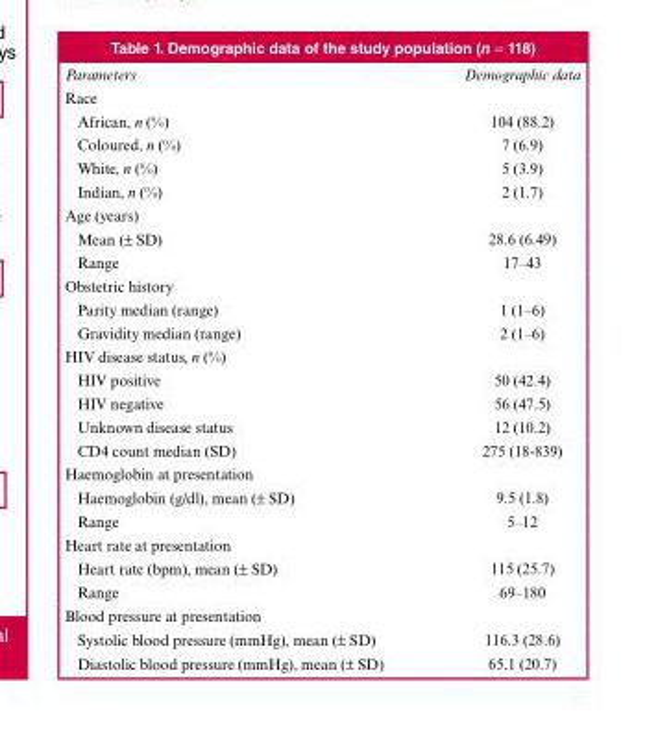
<table><thead><tr><td>Parameters</td><td>Demographic data</td></tr></thead><tbody><tr><td colspan="2">Race</td></tr><tr><td>African, n (%)</td><td>104 (88.2)</td></tr><tr><td>Coloured, n (%)</td><td>7 (6.9)</td></tr><tr><td>White, n (%)</td><td>5 (3.9)</td></tr><tr><td>Indian, n (%)</td><td>2 (1.7)</td></tr><tr><td colspan="2">Age (years)</td></tr><tr><td>Mean (± SD)</td><td>28.6 (6.49)</td></tr><tr><td>Range</td><td>17–43</td></tr><tr><td colspan="2">Obstetric history</td></tr><tr><td>Parity median (range)</td><td>1 (1–6)</td></tr><tr><td>Gravidity median (range)</td><td>2 (1–6)</td></tr><tr><td colspan="2">HIV disease status, n (%)</td></tr><tr><td>HIV positive</td><td>50 (42.4)</td></tr><tr><td>HIV negative</td><td>56 (47.5)</td></tr><tr><td>Unknown disease status</td><td>12 (10.2)</td></tr><tr><td>CD4 count median (SD)</td><td>275 (18-839)</td></tr><tr><td colspan="2">Haemoglobin at presentation</td></tr><tr><td>Haemoglobin (g/dl), mean (± SD)</td><td>9.5 (1.8)</td></tr><tr><td>Range</td><td>5–12</td></tr><tr><td colspan="2">Heart rate at presentation</td></tr><tr><td>Heart rate (bpm), mean (± SD)</td><td>115 (25.7)</td></tr><tr><td>Range</td><td>69–180</td></tr><tr><td colspan="2">Blood pressure at presentation</td></tr><tr><td>Systolic blood pressure (mmHg), mean (± SD)</td><td>116.3 (28.6)</td></tr><tr><td>Diastolic blood pressure (mmHg), mean (± SD)</td><td>65.1 (20.7)</td></tr></tbody></table>